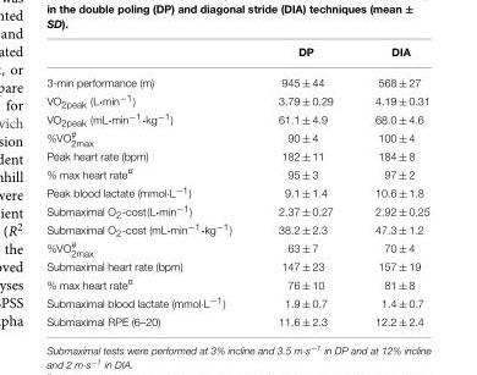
<table><thead><tr><td></td><td>DP</td><td>DIA</td></tr></thead><tbody><tr><td>3-min performance (m)</td><td>945 ± 44</td><td>568 ± 27</td></tr><tr><td>VO<sub>2peak</sub> (L·min<sup>−1</sup>)</td><td>3.79 ± 0.29</td><td>4.19 ± 0.31</td></tr><tr><td>VO<sub>2peak</sub> (mL·min<sup>−1</sup>·kg<sup>−1</sup>)</td><td>61.1 ± 4.9</td><td>68.0 ± 4.6</td></tr><tr><td>%VO<sup>#</sup> <sub>2max</sub></td><td>90 ± 4</td><td>100 ± 4</td></tr><tr><td>Peak heart rate (bpm)</td><td>182 ± 11</td><td>184 ± 8</td></tr><tr><td>% max heart rate<sup>¤</sup></td><td>95 ± 3</td><td>97 ± 2</td></tr><tr><td>Peak blood lactate (mmol·L<sup>−1</sup>)</td><td>9.1 ± 1.4</td><td>10.6 ± 1.8</td></tr><tr><td>Submaximal O<sub>2</sub>-cost(L·min<sup>−1</sup>)</td><td>2.37 ± 0.27</td><td>2.92 ± 0.25</td></tr><tr><td>Submaximal O<sub>2</sub>-cost (mL·min<sup>−1</sup>·kg<sup>−1</sup>)</td><td>38.2 ± 2.3</td><td>47.3 ± 1.2</td></tr><tr><td>%VO<sup>#</sup> <sub>2max</sub></td><td>63 ± 7</td><td>70 ± 4</td></tr><tr><td>Submaximal heart rate (bpm)</td><td>147 ± 23</td><td>157 ± 19</td></tr><tr><td>% max heart rate<sup>¤</sup></td><td>76 ± 10</td><td>81 ± 8</td></tr><tr><td>Submaximal blood lactate (mmol·L<sup>−1</sup>)</td><td>1.9 ± 0.7</td><td>1.4 ± 0.7</td></tr><tr><td>Submaximal RPE (6–20)</td><td>11.6 ± 2.3</td><td>12.2 ± 2.4</td></tr></tbody></table>